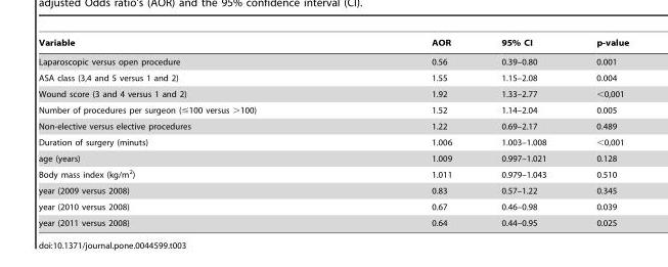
<table><thead><tr><td>Variable</td><td>AOR</td><td>95% CI</td><td>p-value</td></tr></thead><tbody><tr><td>Laparoscopic versus open procedure</td><td>0.56</td><td>0.39–0.80</td><td>0.001</td></tr><tr><td>ASA class (3,4 and 5 versus 1 and 2)</td><td>1.55</td><td>1.15–2.08</td><td>0.004</td></tr><tr><td>Wound score (3 and 4 versus 1 and 2)</td><td>1.92</td><td>1.33–2.77</td><td>&lt;0,001</td></tr><tr><td>Number of procedures per surgeon (≤100 versus &gt;100)</td><td>1.52</td><td>1.14–2.04</td><td>0.005</td></tr><tr><td>Non-elective versus elective procedures</td><td>1.22</td><td>0.69–2.17</td><td>0.489</td></tr><tr><td>Duration of surgery (minuts)</td><td>1.006</td><td>1.003–1.008</td><td>&lt;0,001</td></tr><tr><td>age (years)</td><td>1.009</td><td>0.997–1.021</td><td>0.128</td></tr><tr><td>Body mass index (kg/m<sup>2</sup>)</td><td>1.011</td><td>0.979–1.043</td><td>0.510</td></tr><tr><td>year (2009 versus 2008)</td><td>0.83</td><td>0.57–1.22</td><td>0.345</td></tr><tr><td>year (2010 versus 2008)</td><td>0.67</td><td>0.46–0.98</td><td>0.039</td></tr><tr><td>year (2011 versus 2008)</td><td>0.64</td><td>0.44–0.95</td><td>0.025</td></tr></tbody></table>